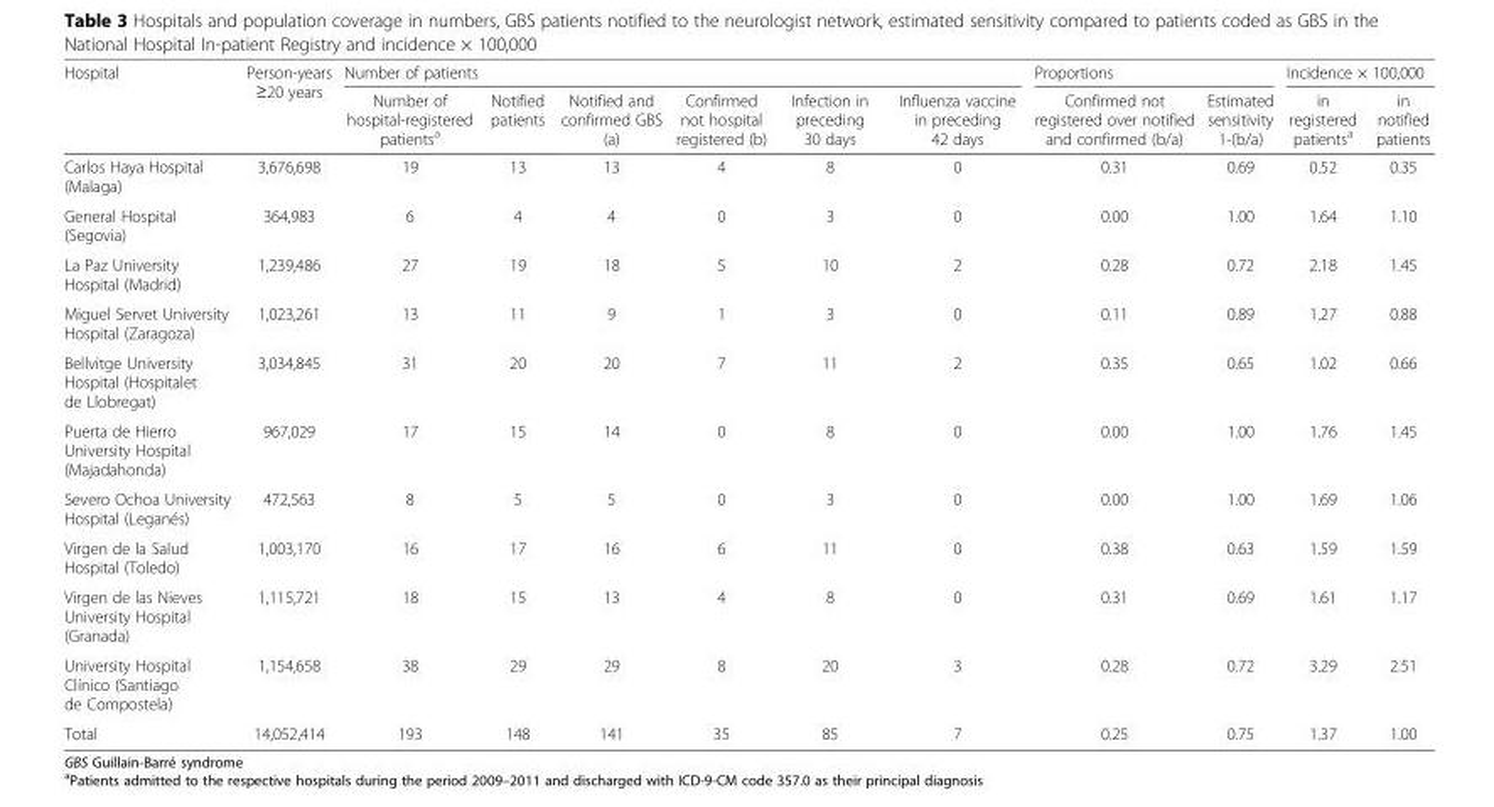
<table><thead><tr><td rowspan="2">Hospital</td><td rowspan="2">Person-years ≥20 years</td><td colspan="6">Number of patients</td><td colspan="2">Proportions</td><td colspan="2">Incidence × 100,000</td></tr><tr><td>Number of hospital-registered patients<sup>a</sup></td><td>Notified patients</td><td>Notified and confirmed GBS (a)</td><td>Confirmed not hospital registered (b)</td><td>Infection in preceding 30 days</td><td>Influenza vaccine in preceding 42 days</td><td>Confirmed not registered over notified and confirmed (b/a)</td><td>Estimated sensitivity 1-(b/a)</td><td>in registered patients<sup>a</sup></td><td>in notified patients</td></tr></thead><tbody><tr><td>Carlos Haya Hospital (Malaga)</td><td>3,676,698</td><td>19</td><td>13</td><td>13</td><td>4</td><td>8</td><td>0</td><td>0.31</td><td>0.69</td><td>0.52</td><td>0.35</td></tr><tr><td>General Hospital (Segovia)</td><td>364,983</td><td>6</td><td>4</td><td>4</td><td>0</td><td>3</td><td>0</td><td>0.00</td><td>1.00</td><td>1.64</td><td>1.10</td></tr><tr><td>La Paz University Hospital (Madrid)</td><td>1,239,486</td><td>27</td><td>19</td><td>18</td><td>5</td><td>10</td><td>2</td><td>0.28</td><td>0.72</td><td>2.18</td><td>1.45</td></tr><tr><td>Miguel Servet University Hospital (Zaragoza)</td><td>1,023,261</td><td>13</td><td>11</td><td>9</td><td>1</td><td>3</td><td>0</td><td>0.11</td><td>0.89</td><td>1.27</td><td>0.88</td></tr><tr><td>Bellvitge University Hospital (Hospitalet de Llobregat)</td><td>3,034,845</td><td>31</td><td>20</td><td>20</td><td>7</td><td>11</td><td>2</td><td>0.35</td><td>0.65</td><td>1.02</td><td>0.66</td></tr><tr><td>Puerta de Hierro University Hospital (Majadahonda)</td><td>967,029</td><td>17</td><td>15</td><td>14</td><td>0</td><td>8</td><td>0</td><td>0.00</td><td>1.00</td><td>1.76</td><td>1.45</td></tr><tr><td>Severo Ochoa University Hospital (Leganés)</td><td>472,563</td><td>8</td><td>5</td><td>5</td><td>0</td><td>3</td><td>0</td><td>0.00</td><td>1.00</td><td>1.69</td><td>1.06</td></tr><tr><td>Virgen de la Salud Hospital (Toledo)</td><td>1,003,170</td><td>16</td><td>17</td><td>16</td><td>6</td><td>11</td><td>0</td><td>0.38</td><td>0.63</td><td>1.59</td><td>1.59</td></tr><tr><td>Virgen de las Nieves University Hospital (Granada)</td><td>1,115,721</td><td>18</td><td>15</td><td>13</td><td>4</td><td>8</td><td>0</td><td>0.31</td><td>0.69</td><td>1.61</td><td>1.17</td></tr><tr><td>University Hospital Clínico (Santiago de Compostela)</td><td>1,154,658</td><td>38</td><td>29</td><td>29</td><td>8</td><td>20</td><td>3</td><td>0.28</td><td>0.72</td><td>3.29</td><td>2.51</td></tr><tr><td>Total</td><td>14,052,414</td><td>193</td><td>148</td><td>141</td><td>35</td><td>85</td><td>7</td><td>0.25</td><td>0.75</td><td>1.37</td><td>1.00</td></tr></tbody></table>